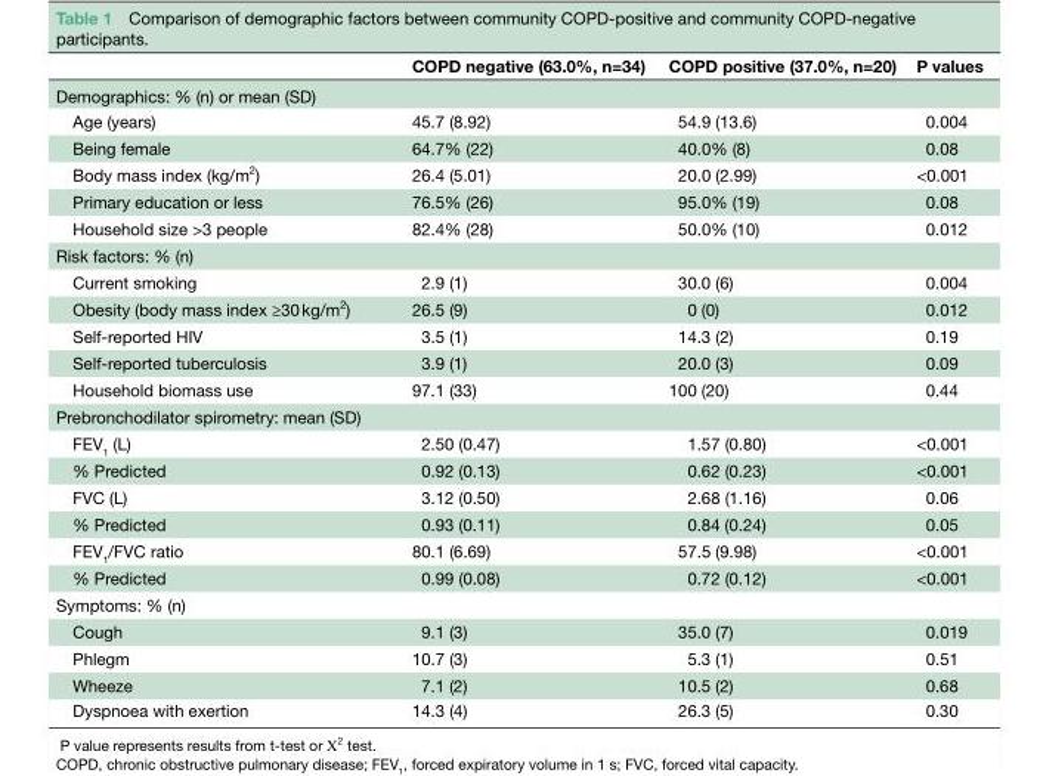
<table><thead><tr><td></td><td>COPD negative (63.0%, n=34)</td><td>COPD positive (37.0%, n=20)</td><td>P values</td></tr></thead><tbody><tr><td colspan="4">Demographics: % (n) or mean (SD)</td></tr><tr><td>Age (years)</td><td>45.7 (8.92)</td><td>54.9 (13.6)</td><td>0.004</td></tr><tr><td>Being female</td><td>64.7% (22)</td><td>40.0% (8)</td><td>0.08</td></tr><tr><td>Body mass index (kg/m<sup>2</sup>)</td><td>26.4 (5.01)</td><td>20.0 (2.99)</td><td>&lt;0.001</td></tr><tr><td>Primary education or less</td><td>76.5% (26)</td><td>95.0% (19)</td><td>0.08</td></tr><tr><td>Household size &gt;3 people</td><td>82.4% (28)</td><td>50.0% (10)</td><td>0.012</td></tr><tr><td colspan="4">Risk factors: % (n)</td></tr><tr><td>Current smoking</td><td>2.9 (1)</td><td>30.0 (6)</td><td>0.004</td></tr><tr><td>Obesity (body mass index ≥30 kg/m<sup>2</sup>)</td><td>26.5 (9)</td><td>0 (0)</td><td>0.012</td></tr><tr><td>Self-reported HIV</td><td>3.5 (1)</td><td>14.3 (2)</td><td>0.19</td></tr><tr><td>Self-reported tuberculosis</td><td>3.9 (1)</td><td>20.0 (3)</td><td>0.09</td></tr><tr><td>Household biomass use</td><td>97.1 (33)</td><td>100 (20)</td><td>0.44</td></tr><tr><td colspan="4">Prebronchodilator spirometry: mean (SD)</td></tr><tr><td>FEV<sub>1</sub> (L)</td><td>2.50 (0.47)</td><td>1.57 (0.80)</td><td>&lt;0.001</td></tr><tr><td>% Predicted</td><td>0.92 (0.13)</td><td>0.62 (0.23)</td><td>&lt;0.001</td></tr><tr><td>FVC (L)</td><td>3.12 (0.50)</td><td>2.68 (1.16)</td><td>0.06</td></tr><tr><td>% Predicted</td><td>0.93 (0.11)</td><td>0.84 (0.24)</td><td>0.05</td></tr><tr><td>FEV<sub>1</sub>/FVC ratio</td><td>80.1 (6.69)</td><td>57.5 (9.98)</td><td>&lt;0.001</td></tr><tr><td>% Predicted</td><td>0.99 (0.08)</td><td>0.72 (0.12)</td><td>&lt;0.001</td></tr><tr><td colspan="4">Symptoms: % (n)</td></tr><tr><td>Cough</td><td>9.1 (3)</td><td>35.0 (7)</td><td>0.019</td></tr><tr><td>Phlegm</td><td>10.7 (3)</td><td>5.3 (1)</td><td>0.51</td></tr><tr><td>Wheeze</td><td>7.1 (2)</td><td>10.5 (2)</td><td>0.68</td></tr><tr><td>Dyspnoea with exertion</td><td>14.3 (4)</td><td>26.3 (5)</td><td>0.30</td></tr></tbody></table>